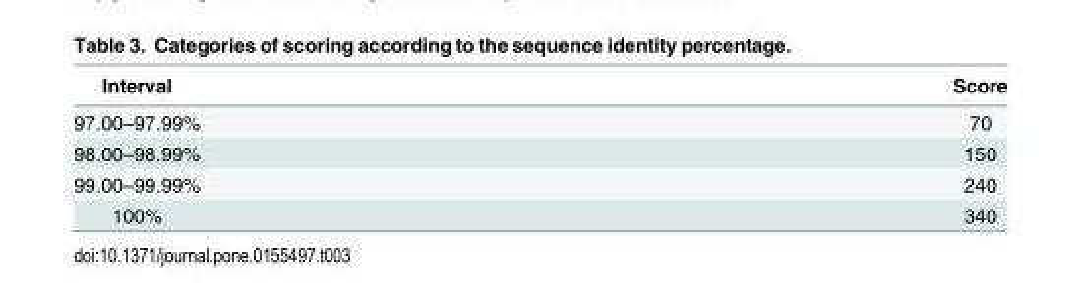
<table><thead><tr><td>Interval</td><td>Score</td></tr></thead><tbody><tr><td>97.00–97.99%</td><td>70</td></tr><tr><td>98.00–98.99%</td><td>150</td></tr><tr><td>99.00–99.99%</td><td>240</td></tr><tr><td>100%</td><td>340</td></tr></tbody></table>